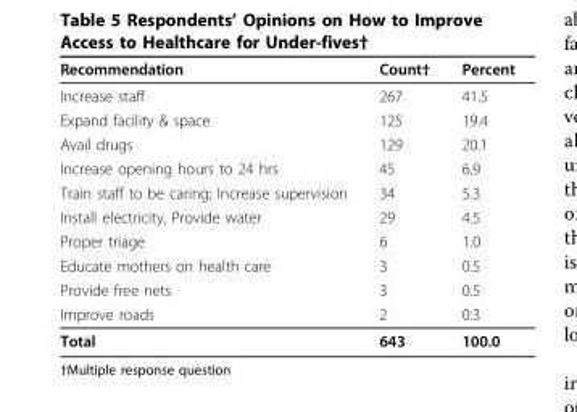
<table><thead><tr><td>Recommendation</td><td>Count†</td><td>Percent</td></tr></thead><tbody><tr><td>Increase staff</td><td>267</td><td>41.5</td></tr><tr><td>Expand facility &amp; space</td><td>125</td><td>19.4</td></tr><tr><td>Avail drugs</td><td>129</td><td>20.1</td></tr><tr><td>Increase opening hours to 24 hrs</td><td>45</td><td>6.9</td></tr><tr><td>Train staff to be caring; Increase supervision</td><td>34</td><td>5.3</td></tr><tr><td>Install electricity, Provide water</td><td>29</td><td>4.5</td></tr><tr><td>Proper triage</td><td>6</td><td>1.0</td></tr><tr><td>Educate mothers on health care</td><td>3</td><td>0.5</td></tr><tr><td>Provide free nets</td><td>3</td><td>0.5</td></tr><tr><td>Improve roads</td><td>2</td><td>0.3</td></tr><tr><td>Total</td><td>643</td><td>100.0</td></tr></tbody></table>